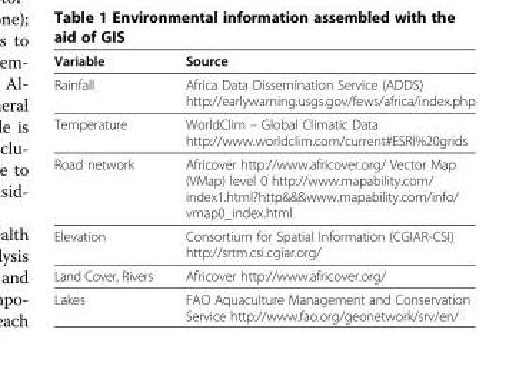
<table><thead><tr><td>Variable</td><td>Source</td></tr></thead><tbody><tr><td>Rainfall</td><td>Africa Data Dissemination Service (ADDS) http://earlywarning.usgs.gov/fews/africa/index.php</td></tr><tr><td>Temperature</td><td>WorldClim – Global Climatic Data http://www.worldclim.com/current#ESRI%20grids</td></tr><tr><td>Road network</td><td>Africover http://www.africover.org/ Vector Map (VMap) level 0 http://www.mapability.com/ index1.html?http&amp;&amp;&amp;www.mapability.com/info/ vmap0_index.html</td></tr><tr><td>Elevation</td><td>Consortium for Spatial Information (CGIAR-CSI) http://srtm.csi.cgiar.org/</td></tr><tr><td>Land Cover, Rivers</td><td>Africover http://www.africover.org/</td></tr><tr><td>Lakes</td><td>FAO Aquaculture Management and Conservation Service http://www.fao.org/geonetwork/srv/en/</td></tr></tbody></table>